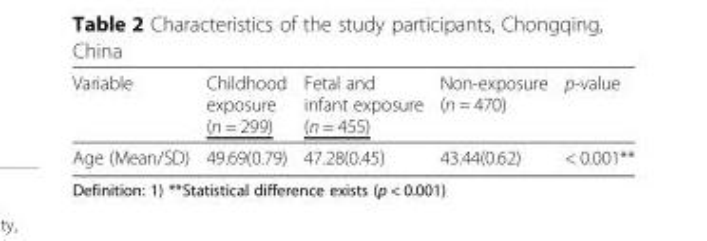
<table><thead><tr><td>Variable</td><td>Childhood exposure (n = 299)</td><td>Fetal and infant exposure (n = 455)</td><td>Non-exposure (n = 470)</td><td>p-value</td></tr></thead><tbody><tr><td>Age (Mean/SD)</td><td>49.69(0.79)</td><td>47.28(0.45)</td><td>43.44(0.62)</td><td>&lt; 0.001**</td></tr></tbody></table>